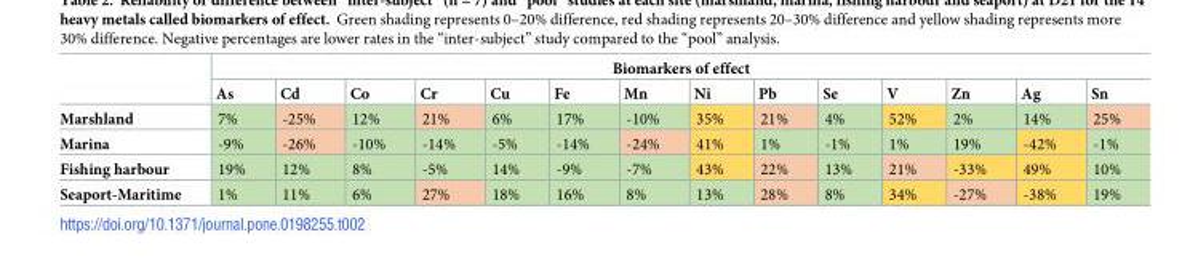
<table><thead><tr><td rowspan="2"></td><td colspan="14">Biomarkers of effect</td></tr><tr><td>As</td><td>Cd</td><td>Co</td><td>Cr</td><td>Cu</td><td>Fe</td><td>Mn</td><td>Ni</td><td>Pb</td><td>Se</td><td>V</td><td>Zn</td><td>Ag</td><td>Sn</td></tr></thead><tbody><tr><td>Marshland</td><td>7%</td><td>-25%</td><td>12%</td><td>21%</td><td>6%</td><td>17%</td><td>-10%</td><td>35%</td><td>21%</td><td>4%</td><td>52%</td><td>2%</td><td>14%</td><td>25%</td></tr><tr><td>Marina</td><td>-9%</td><td>-26%</td><td>-10%</td><td>-14%</td><td>-5%</td><td>-14%</td><td>-24%</td><td>41%</td><td>1%</td><td>-1%</td><td>1%</td><td>19%</td><td>-42%</td><td>-1%</td></tr><tr><td>Fishing harbour</td><td>19%</td><td>12%</td><td>8%</td><td>-5%</td><td>14%</td><td>-9%</td><td>-7%</td><td>43%</td><td>22%</td><td>13%</td><td>21%</td><td>-33%</td><td>49%</td><td>10%</td></tr><tr><td>Seaport-Maritime</td><td>1%</td><td>11%</td><td>6%</td><td>27%</td><td>18%</td><td>16%</td><td>8%</td><td>13%</td><td>28%</td><td>8%</td><td>34%</td><td>-27%</td><td>-38%</td><td>19%</td></tr></tbody></table>